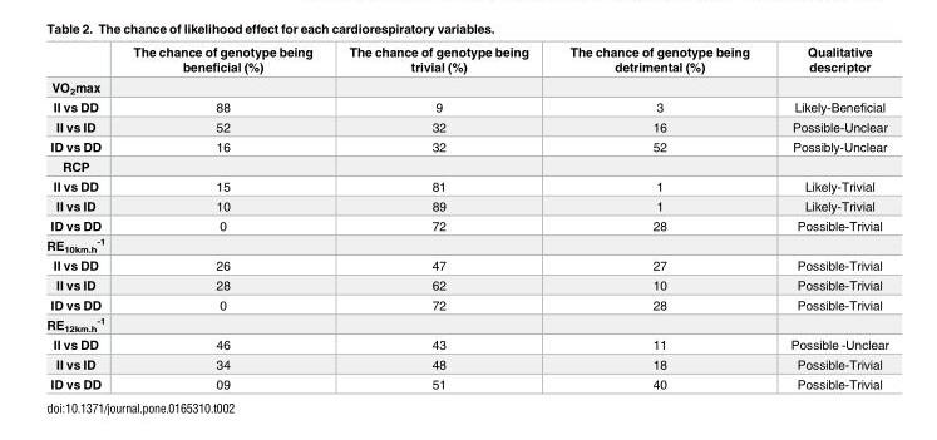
<table><thead><tr><td></td><td>The chance of genotype being beneficial (%)</td><td>The chance of genotype being trivial (%)</td><td>The chance of genotype being detrimental (%)</td><td>Qualitative descriptor</td></tr></thead><tbody><tr><td colspan="5">VO<sub>2</sub>max</td></tr><tr><td>II vs DD</td><td>88</td><td>9</td><td>3</td><td>Likely-Beneficial</td></tr><tr><td>II vs ID</td><td>52</td><td>32</td><td>16</td><td>Possible-Unclear</td></tr><tr><td>ID vs DD</td><td>16</td><td>32</td><td>52</td><td>Possibly-Unclear</td></tr><tr><td colspan="5">RCP</td></tr><tr><td>II vs DD</td><td>15</td><td>81</td><td>1</td><td>Likely-Trivial</td></tr><tr><td>II vs ID</td><td>10</td><td>89</td><td>1</td><td>Likely-Trivial</td></tr><tr><td>ID vs DD</td><td>0</td><td>72</td><td>28</td><td>Possible-Trivial</td></tr><tr><td colspan="5">RE<sub>10km.h</sub> <sup>-1</sup></td></tr><tr><td>II vs DD</td><td>26</td><td>47</td><td>27</td><td>Possible-Trivial</td></tr><tr><td>II vs ID</td><td>28</td><td>62</td><td>10</td><td>Possible-Trivial</td></tr><tr><td>ID vs DD</td><td>0</td><td>72</td><td>28</td><td>Possible-Trivial</td></tr><tr><td colspan="5">RE<sub>12km.h</sub> <sup>-1</sup></td></tr><tr><td>II vs DD</td><td>46</td><td>43</td><td>11</td><td>Possible -Unclear</td></tr><tr><td>II vs ID</td><td>34</td><td>48</td><td>18</td><td>Possible-Trivial</td></tr><tr><td>ID vs DD</td><td>09</td><td>51</td><td>40</td><td>Possible-Trivial</td></tr></tbody></table>